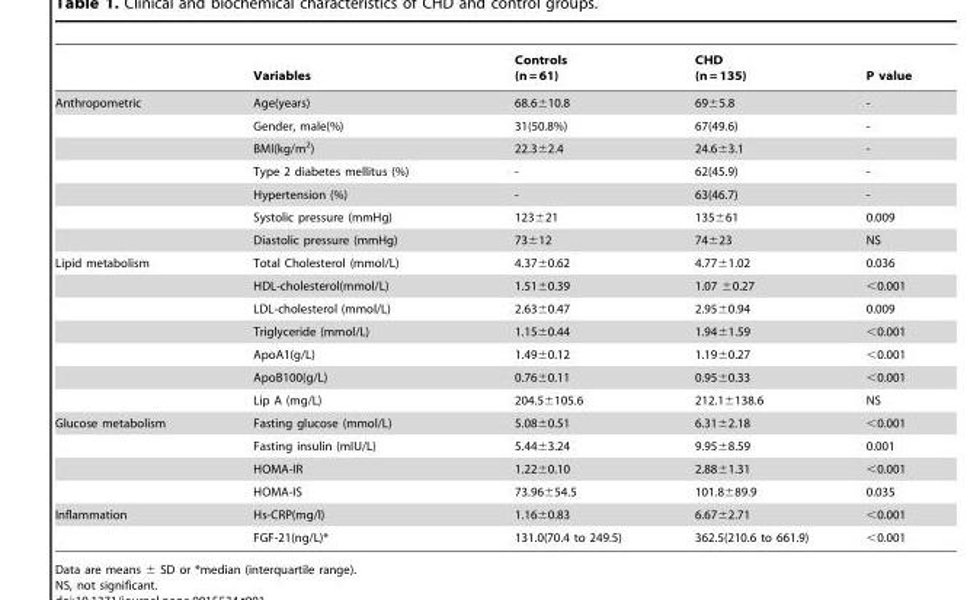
<table><thead><tr><td></td><td>Variables</td><td>Controls (n = 61)</td><td>CHD (n = 135)</td><td>P value</td></tr></thead><tbody><tr><td rowspan="7">Anthropometric</td><td>Age(years)</td><td>68.6±10.8</td><td>69±5.8</td><td>-</td></tr><tr><td>Gender, male(%)</td><td>31(50.8%)</td><td>67(49.6)</td><td>-</td></tr><tr><td>BMI(kg/m<sup>2</sup>)</td><td>22.3±2.4</td><td>24.6±3.1</td><td>-</td></tr><tr><td>Type 2 diabetes mellitus (%)</td><td>-</td><td>62(45.9)</td><td>-</td></tr><tr><td>Hypertension (%)</td><td>-</td><td>63(46.7)</td><td>-</td></tr><tr><td>Systolic pressure (mmHg)</td><td>123±21</td><td>135±61</td><td>0.009</td></tr><tr><td>Diastolic pressure (mmHg)</td><td>73±12</td><td>74±23</td><td>NS</td></tr><tr><td rowspan="7">Lipid metabolism</td><td>Total Cholesterol (mmol/L)</td><td>4.37±0.62</td><td>4.77±1.02</td><td>0.036</td></tr><tr><td>HDL-cholesterol(mmol/L)</td><td>1.51±0.39</td><td>1.07 ±0.27</td><td>&lt;0.001</td></tr><tr><td>LDL-cholesterol (mmol/L)</td><td>2.63±0.47</td><td>2.95±0.94</td><td>0.009</td></tr><tr><td>Triglyceride (mmol/L)</td><td>1.15±0.44</td><td>1.94±1.59</td><td>&lt;0.001</td></tr><tr><td>ApoA1(g/L)</td><td>1.49±0.12</td><td>1.19±0.27</td><td>&lt;0.001</td></tr><tr><td>ApoB100(g/L)</td><td>0.76±0.11</td><td>0.95±0.33</td><td>&lt;0.001</td></tr><tr><td>Lip A (mg/L)</td><td>204.5±105.6</td><td>212.1±138.6</td><td>NS</td></tr><tr><td rowspan="4">Glucose metabolism</td><td>Fasting glucose (mmol/L)</td><td>5.08±0.51</td><td>6.31±2.18</td><td>&lt;0.001</td></tr><tr><td>Fasting insulin (mIU/L)</td><td>5.44±3.24</td><td>9.95±8.59</td><td>0.001</td></tr><tr><td>HOMA-IR</td><td>1.22±0.10</td><td>2.88±1.31</td><td>&lt;0.001</td></tr><tr><td>HOMA-IS</td><td>73.96±54.5</td><td>101.8±89.9</td><td>0.035</td></tr><tr><td rowspan="2">Inflammation</td><td>Hs-CRP(mg/l)</td><td>1.16±0.83</td><td>6.67±2.71</td><td>&lt;0.001</td></tr><tr><td>FGF-21(ng/L)*</td><td>131.0(70.4 to 249.5)</td><td>362.5(210.6 to 661.9)</td><td>&lt;0.001</td></tr></tbody></table>